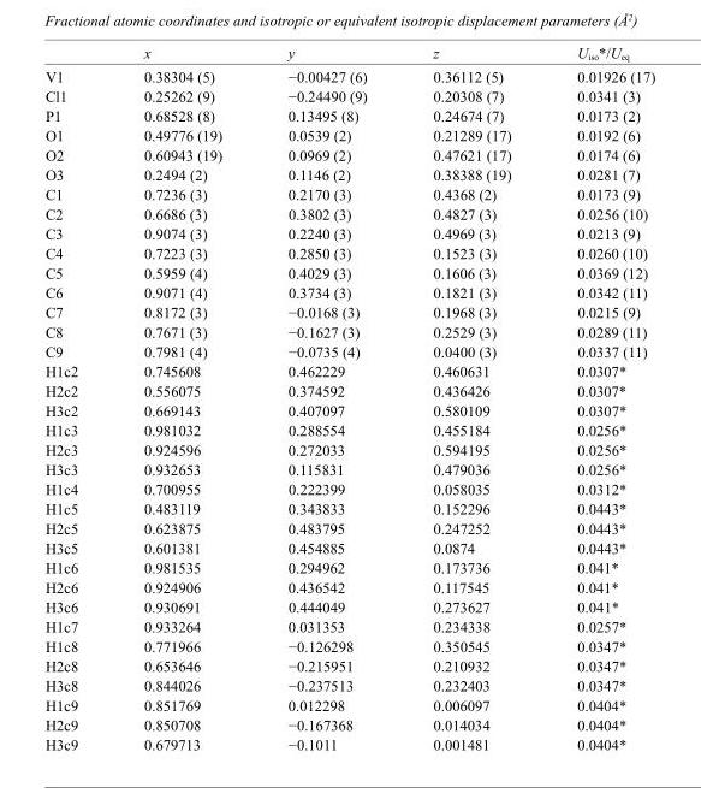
<table><thead><tr><td></td><td>x</td><td>y</td><td>z</td><td>U<sub>iso</sub>*/U<sub>eq</sub></td></tr></thead><tbody><tr><td>V1</td><td>0.38304 (5)</td><td>−0.00427 (6)</td><td>0.36112 (5)</td><td>0.01926 (17)</td></tr><tr><td>Cl1</td><td>0.25262 (9)</td><td>−0.24490 (9)</td><td>0.20308 (7)</td><td>0.0341 (3)</td></tr><tr><td>P1</td><td>0.68528 (8)</td><td>0.13495 (8)</td><td>0.24674 (7)</td><td>0.0173 (2)</td></tr><tr><td>O1</td><td>0.49776 (19)</td><td>0.0539 (2)</td><td>0.21289 (17)</td><td>0.0192 (6)</td></tr><tr><td>O2</td><td>0.60943 (19)</td><td>0.0969 (2)</td><td>0.47621 (17)</td><td>0.0174 (6)</td></tr><tr><td>O3</td><td>0.2494 (2)</td><td>0.1146 (2)</td><td>0.38388 (19)</td><td>0.0281 (7)</td></tr><tr><td>C1</td><td>0.7236 (3)</td><td>0.2170 (3)</td><td>0.4368 (2)</td><td>0.0173 (9)</td></tr><tr><td>C2</td><td>0.6686 (3)</td><td>0.3802 (3)</td><td>0.4827 (3)</td><td>0.0256 (10)</td></tr><tr><td>C3</td><td>0.9074 (3)</td><td>0.2240 (3)</td><td>0.4969 (3)</td><td>0.0213 (9)</td></tr><tr><td>C4</td><td>0.7223 (3)</td><td>0.2850 (3)</td><td>0.1523 (3)</td><td>0.0260 (10)</td></tr><tr><td>C5</td><td>0.5959 (4)</td><td>0.4029 (3)</td><td>0.1606 (3)</td><td>0.0369 (12)</td></tr><tr><td>C6</td><td>0.9071 (4)</td><td>0.3734 (3)</td><td>0.1821 (3)</td><td>0.0342 (11)</td></tr><tr><td>C7</td><td>0.8172 (3)</td><td>−0.0168 (3)</td><td>0.1968 (3)</td><td>0.0215 (9)</td></tr><tr><td>C8</td><td>0.7671 (3)</td><td>−0.1627 (3)</td><td>0.2529 (3)</td><td>0.0289 (11)</td></tr><tr><td>C9</td><td>0.7981 (4)</td><td>−0.0735 (4)</td><td>0.0400 (3)</td><td>0.0337 (11)</td></tr><tr><td>H1c2</td><td>0.745608</td><td>0.462229</td><td>0.460631</td><td>0.0307*</td></tr><tr><td>H2c2</td><td>0.556075</td><td>0.374592</td><td>0.436426</td><td>0.0307*</td></tr><tr><td>H3c2</td><td>0.669143</td><td>0.407097</td><td>0.580109</td><td>0.0307*</td></tr><tr><td>H1c3</td><td>0.981032</td><td>0.288554</td><td>0.455184</td><td>0.0256*</td></tr><tr><td>H2c3</td><td>0.924596</td><td>0.272033</td><td>0.594195</td><td>0.0256*</td></tr><tr><td>H3c3</td><td>0.932653</td><td>0.115831</td><td>0.479036</td><td>0.0256*</td></tr><tr><td>H1c4</td><td>0.700955</td><td>0.222399</td><td>0.058035</td><td>0.0312*</td></tr><tr><td>H1c5</td><td>0.483119</td><td>0.343833</td><td>0.152296</td><td>0.0443*</td></tr><tr><td>H2c5</td><td>0.623875</td><td>0.483795</td><td>0.247252</td><td>0.0443*</td></tr><tr><td>H3c5</td><td>0.601381</td><td>0.454885</td><td>0.0874</td><td>0.0443*</td></tr><tr><td>H1c6</td><td>0.981535</td><td>0.294962</td><td>0.173736</td><td>0.041*</td></tr><tr><td>H2c6</td><td>0.924906</td><td>0.436542</td><td>0.117545</td><td>0.041*</td></tr><tr><td>H3c6</td><td>0.930691</td><td>0.444049</td><td>0.273627</td><td>0.041*</td></tr><tr><td>H1c7</td><td>0.933264</td><td>0.031353</td><td>0.234338</td><td>0.0257*</td></tr><tr><td>H1c8</td><td>0.771966</td><td>−0.126298</td><td>0.350545</td><td>0.0347*</td></tr><tr><td>H2c8</td><td>0.653646</td><td>−0.215951</td><td>0.210932</td><td>0.0347*</td></tr><tr><td>H3c8</td><td>0.844026</td><td>−0.237513</td><td>0.232403</td><td>0.0347*</td></tr><tr><td>H1c9</td><td>0.851769</td><td>0.012298</td><td>0.006097</td><td>0.0404*</td></tr><tr><td>H2c9</td><td>0.850708</td><td>−0.167368</td><td>0.014034</td><td>0.0404*</td></tr><tr><td>H3c9</td><td>0.679713</td><td>−0.1011</td><td>0.001481</td><td>0.0404*</td></tr></tbody></table>